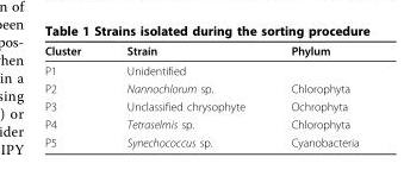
<table><thead><tr><td>Cluster</td><td>Strain</td><td>Phylum</td></tr></thead><tbody><tr><td>P1</td><td>Unidentified</td><td></td></tr><tr><td>P2</td><td>Nannochlorum sp.</td><td>Chlorophyta</td></tr><tr><td>P3</td><td>Unclassified chrysophyte</td><td>Ochrophyta</td></tr><tr><td>P4</td><td>Tetraselmis sp.</td><td>Chlorophyta</td></tr><tr><td>P5</td><td>Synechococcus sp.</td><td>Cyanobacteria</td></tr></tbody></table>